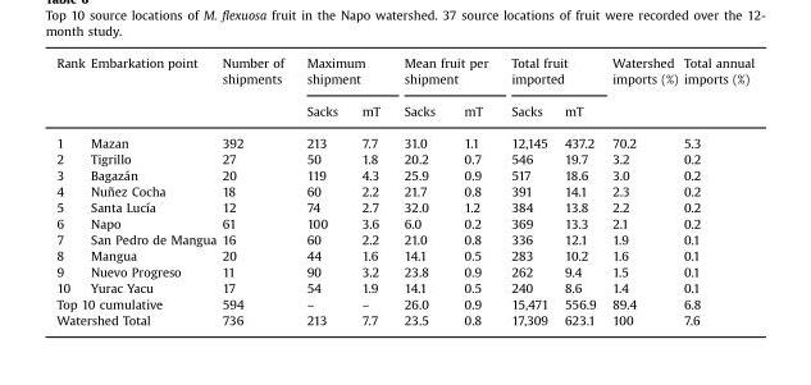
<table><thead><tr><td rowspan="2">Rank</td><td rowspan="2">Embarkation point</td><td rowspan="2">Number of shipments</td><td colspan="2">Maximum shipment</td><td colspan="2">Mean fruit per shipment</td><td colspan="2">Total fruit imported</td><td rowspan="2">Watershed imports (%)</td><td rowspan="2">Total annual imports (%)</td></tr><tr><td>Sacks</td><td>mT</td><td>Sacks</td><td>mT</td><td>Sacks</td><td>mT</td></tr></thead><tbody><tr><td>1</td><td>Mazan</td><td>392</td><td>213</td><td>7.7</td><td>31.0</td><td>1.1</td><td>12,145</td><td>437.2</td><td>70.2</td><td>5.3</td></tr><tr><td>2</td><td>Tigrillo</td><td>27</td><td>50</td><td>1.8</td><td>20.2</td><td>0.7</td><td>546</td><td>19.7</td><td>3.2</td><td>0.2</td></tr><tr><td>3</td><td>Bagazán</td><td>20</td><td>119</td><td>4.3</td><td>25.9</td><td>0.9</td><td>517</td><td>18.6</td><td>3.0</td><td>0.2</td></tr><tr><td>4</td><td>Nuñez Cocha</td><td>18</td><td>60</td><td>2.2</td><td>21.7</td><td>0.8</td><td>391</td><td>14.1</td><td>2.3</td><td>0.2</td></tr><tr><td>5</td><td>Santa Lucía</td><td>12</td><td>74</td><td>2.7</td><td>32.0</td><td>1.2</td><td>384</td><td>13.8</td><td>2.2</td><td>0.2</td></tr><tr><td>6</td><td>Napo</td><td>61</td><td>100</td><td>3.6</td><td>6.0</td><td>0.2</td><td>369</td><td>13.3</td><td>2.1</td><td>0.2</td></tr><tr><td>7</td><td>San Pedro de Mangua</td><td>16</td><td>60</td><td>2.2</td><td>21.0</td><td>0.8</td><td>336</td><td>12.1</td><td>1.9</td><td>0.1</td></tr><tr><td>8</td><td>Mangua</td><td>20</td><td>44</td><td>1.6</td><td>14.1</td><td>0.5</td><td>283</td><td>10.2</td><td>1.6</td><td>0.1</td></tr><tr><td>9</td><td>Nuevo Progreso</td><td>11</td><td>90</td><td>3.2</td><td>23.8</td><td>0.9</td><td>262</td><td>9.4</td><td>1.5</td><td>0.1</td></tr><tr><td>10</td><td>Yurac Yacu</td><td>17</td><td>54</td><td>1.9</td><td>14.1</td><td>0.5</td><td>240</td><td>8.6</td><td>1.4</td><td>0.1</td></tr><tr><td colspan="2">Top 10 cumulative</td><td>594</td><td>–</td><td>–</td><td>26.0</td><td>0.9</td><td>15,471</td><td>556.9</td><td>89.4</td><td>6.8</td></tr><tr><td colspan="2">Watershed Total</td><td>736</td><td>213</td><td>7.7</td><td>23.5</td><td>0.8</td><td>17,309</td><td>623.1</td><td>100</td><td>7.6</td></tr></tbody></table>